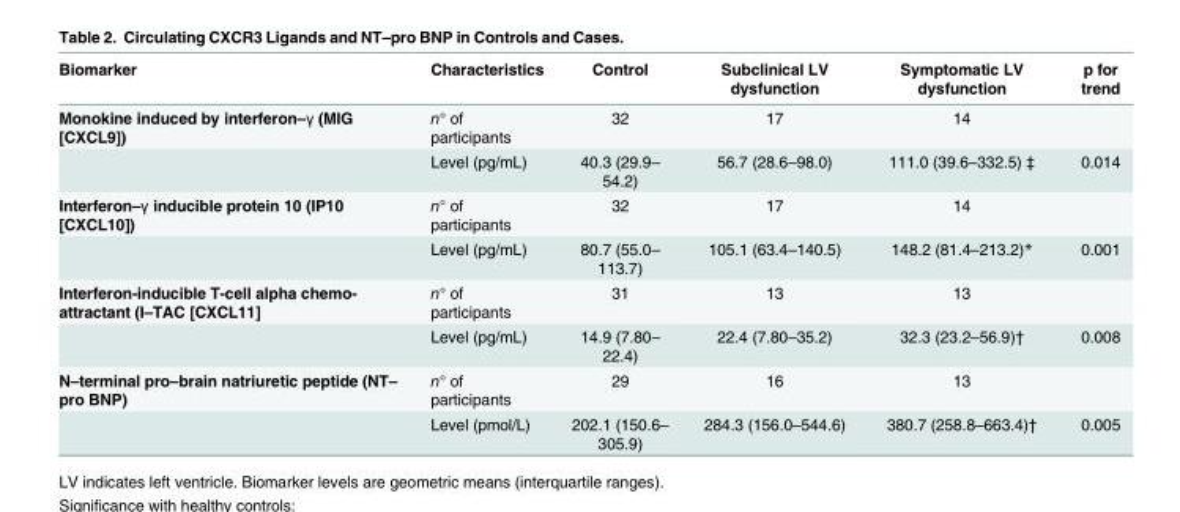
<table><thead><tr><td>Biomarker</td><td>Characteristics</td><td>Control</td><td>Subclinical LV dysfunction</td><td>Symptomatic LV dysfunction</td><td>p for trend</td></tr></thead><tbody><tr><td rowspan="2">Monokine induced by interferon–γ (MIG [CXCL9])</td><td>n° of participants</td><td>32</td><td>17</td><td>14</td><td></td></tr><tr><td>Level (pg/mL)</td><td>40.3 (29.9– 54.2)</td><td>56.7 (28.6–98.0)</td><td>111.0 (39.6–332.5) ‡</td><td>0.014</td></tr><tr><td rowspan="2">Interferon–γ inducible protein 10 (IP10 [CXCL10])</td><td>n° of participants</td><td>32</td><td>17</td><td>14</td><td></td></tr><tr><td>Level (pg/mL)</td><td>80.7 (55.0– 113.7)</td><td>105.1 (63.4–140.5)</td><td>148.2 (81.4–213.2)*</td><td>0.001</td></tr><tr><td rowspan="2">Interferon-inducible T-cell alpha chemo- attractant (I–TAC [CXCL11]</td><td>n° of participants</td><td>31</td><td>13</td><td>13</td><td></td></tr><tr><td>Level (pg/mL)</td><td>14.9 (7.80– 22.4)</td><td>22.4 (7.80–35.2)</td><td>32.3 (23.2–56.9)†</td><td>0.008</td></tr><tr><td rowspan="2">N–terminal pro–brain natriuretic peptide (NT– pro BNP)</td><td>n° of participants</td><td>29</td><td>16</td><td>13</td><td></td></tr><tr><td>Level (pmol/L)</td><td>202.1 (150.6– 305.9)</td><td>284.3 (156.0–544.6)</td><td>380.7 (258.8–663.4)†</td><td>0.005</td></tr></tbody></table>